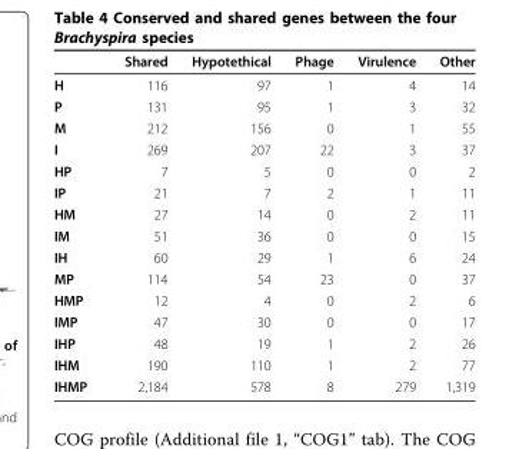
<table><thead><tr><td></td><td>Shared</td><td>Hypotethical</td><td>Phage</td><td>Virulence</td><td>Other</td></tr></thead><tbody><tr><td>H</td><td>116</td><td>97</td><td>1</td><td>4</td><td>14</td></tr><tr><td>P</td><td>131</td><td>95</td><td>1</td><td>3</td><td>32</td></tr><tr><td>M</td><td>212</td><td>156</td><td>0</td><td>1</td><td>55</td></tr><tr><td>I</td><td>269</td><td>207</td><td>22</td><td>3</td><td>37</td></tr><tr><td>HP</td><td>7</td><td>5</td><td>0</td><td>0</td><td>2</td></tr><tr><td>IP</td><td>21</td><td>7</td><td>2</td><td>1</td><td>11</td></tr><tr><td>HM</td><td>27</td><td>14</td><td>0</td><td>2</td><td>11</td></tr><tr><td>IM</td><td>51</td><td>36</td><td>0</td><td>0</td><td>15</td></tr><tr><td>IH</td><td>60</td><td>29</td><td>1</td><td>6</td><td>24</td></tr><tr><td>MP</td><td>114</td><td>54</td><td>23</td><td>0</td><td>37</td></tr><tr><td>HMP</td><td>12</td><td>4</td><td>0</td><td>2</td><td>6</td></tr><tr><td>IMP</td><td>47</td><td>30</td><td>0</td><td>0</td><td>17</td></tr><tr><td>IHP</td><td>48</td><td>19</td><td>1</td><td>2</td><td>26</td></tr><tr><td>IHM</td><td>190</td><td>110</td><td>1</td><td>2</td><td>77</td></tr><tr><td>IHMP</td><td>2,184</td><td>578</td><td>8</td><td>279</td><td>1,319</td></tr></tbody></table>